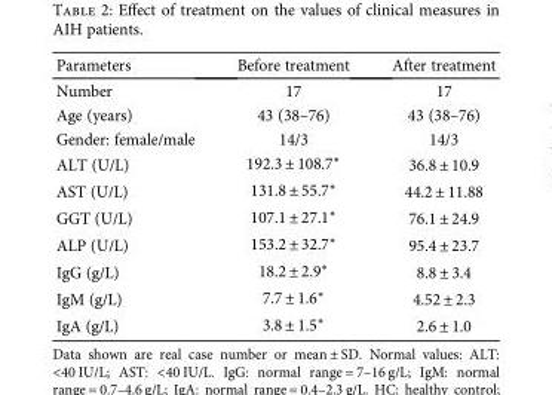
<table><thead><tr><td>Parameters</td><td>Before treatment</td><td>After treatment</td></tr></thead><tbody><tr><td>Number</td><td>17</td><td>17</td></tr><tr><td>Age (years)</td><td>43 (38–76)</td><td>43 (38–76)</td></tr><tr><td>Gender: female/male</td><td>14/3</td><td>14/3</td></tr><tr><td>ALT (U/L)</td><td>192.3 ± 108.7∗</td><td>36.8 ± 10.9</td></tr><tr><td>AST (U/L)</td><td>131.8 ± 55.7∗</td><td>44.2 ± 11.88</td></tr><tr><td>GGT (U/L)</td><td>107.1 ± 27.1∗</td><td>76.1 ± 24.9</td></tr><tr><td>ALP (U/L)</td><td>153.2 ± 32.7∗</td><td>95.4 ± 23.7</td></tr><tr><td>IgG (g/L)</td><td>18.2 ± 2.9∗</td><td>8.8 ± 3.4</td></tr><tr><td>IgM (g/L)</td><td>7.7 ± 1.6∗</td><td>4.52 ± 2.3</td></tr><tr><td>IgA (g/L)</td><td>3.8 ± 1.5∗</td><td>2.6 ± 1.0</td></tr></tbody></table>